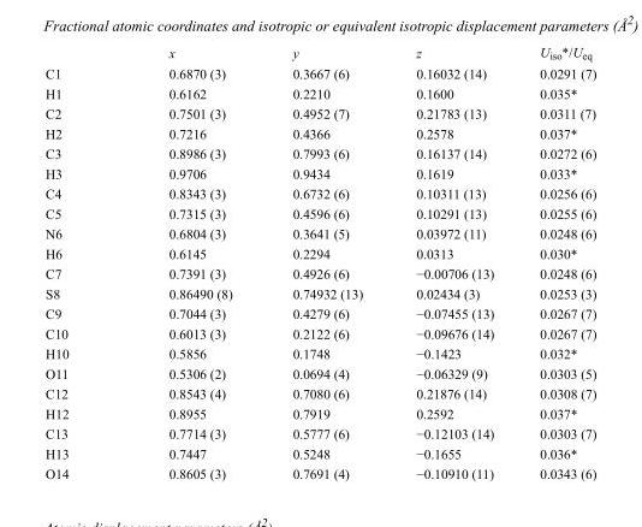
<table><thead><tr><td></td><td>x</td><td>y</td><td>z</td><td>U<sub>iso</sub>*/U<sub>eq</sub></td></tr></thead><tbody><tr><td>C1</td><td>0.6870 (3)</td><td>0.3667 (6)</td><td>0.16032 (14)</td><td>0.0291 (7)</td></tr><tr><td>H1</td><td>0.6162</td><td>0.2210</td><td>0.1600</td><td>0.035*</td></tr><tr><td>C2</td><td>0.7501 (3)</td><td>0.4952 (7)</td><td>0.21783 (13)</td><td>0.0311 (7)</td></tr><tr><td>H2</td><td>0.7216</td><td>0.4366</td><td>0.2578</td><td>0.037*</td></tr><tr><td>C3</td><td>0.8986 (3)</td><td>0.7993 (6)</td><td>0.16137 (14)</td><td>0.0272 (6)</td></tr><tr><td>H3</td><td>0.9706</td><td>0.9434</td><td>0.1619</td><td>0.033*</td></tr><tr><td>C4</td><td>0.8343 (3)</td><td>0.6732 (6)</td><td>0.10311 (13)</td><td>0.0256 (6)</td></tr><tr><td>C5</td><td>0.7315 (3)</td><td>0.4596 (6)</td><td>0.10291 (13)</td><td>0.0255 (6)</td></tr><tr><td>N6</td><td>0.6804 (3)</td><td>0.3641 (5)</td><td>0.03972 (11)</td><td>0.0248 (6)</td></tr><tr><td>H6</td><td>0.6145</td><td>0.2294</td><td>0.0313</td><td>0.030*</td></tr><tr><td>C7</td><td>0.7391 (3)</td><td>0.4926 (6)</td><td>−0.00706 (13)</td><td>0.0248 (6)</td></tr><tr><td>S8</td><td>0.86490 (8)</td><td>0.74932 (13)</td><td>0.02434 (3)</td><td>0.0253 (3)</td></tr><tr><td>C9</td><td>0.7044 (3)</td><td>0.4279 (6)</td><td>−0.07455 (13)</td><td>0.0267 (7)</td></tr><tr><td>C10</td><td>0.6013 (3)</td><td>0.2122 (6)</td><td>−0.09676 (14)</td><td>0.0267 (7)</td></tr><tr><td>H10</td><td>0.5856</td><td>0.1748</td><td>−0.1423</td><td>0.032*</td></tr><tr><td>O11</td><td>0.5306 (2)</td><td>0.0694 (4)</td><td>−0.06329 (9)</td><td>0.0303 (5)</td></tr><tr><td>C12</td><td>0.8543 (4)</td><td>0.7080 (6)</td><td>0.21876 (14)</td><td>0.0308 (7)</td></tr><tr><td>H12</td><td>0.8955</td><td>0.7919</td><td>0.2592</td><td>0.037*</td></tr><tr><td>C13</td><td>0.7714 (3)</td><td>0.5777 (6)</td><td>−0.12103 (14)</td><td>0.0303 (7)</td></tr><tr><td>H13</td><td>0.7447</td><td>0.5248</td><td>−0.1655</td><td>0.036*</td></tr><tr><td>O14</td><td>0.8605 (3)</td><td>0.7691 (4)</td><td>−0.10910 (11)</td><td>0.0343 (6)</td></tr></tbody></table>